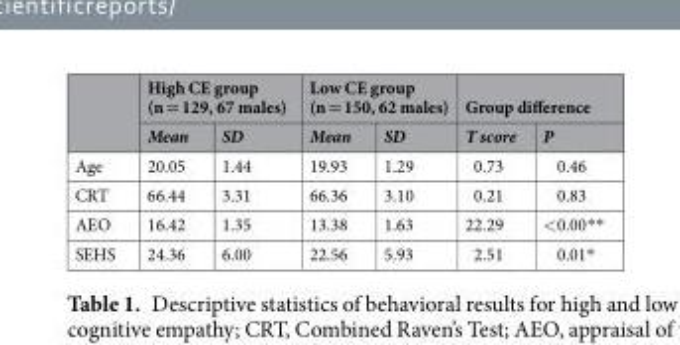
<table><thead><tr><td rowspan="2"></td><td colspan="2">High CE group (n = 129, 67 males)</td><td colspan="2">Low CE group (n = 150, 62 males)</td><td colspan="2">Group difference</td></tr><tr><td>Mean</td><td>SD</td><td>Mean</td><td>SD</td><td>T score</td><td>P</td></tr></thead><tbody><tr><td>Age</td><td>20.05</td><td>1.44</td><td>19.93</td><td>1.29</td><td>0.73</td><td>0.46</td></tr><tr><td>CRT</td><td>66.44</td><td>3.31</td><td>66.36</td><td>3.10</td><td>0.21</td><td>0.83</td></tr><tr><td>AEO</td><td>16.42</td><td>1.35</td><td>13.38</td><td>1.63</td><td>22.29</td><td>&lt;0.00**</td></tr><tr><td>SEHS</td><td>24.36</td><td>6.00</td><td>22.56</td><td>5.93</td><td>2.51</td><td>0.01*</td></tr></tbody></table>